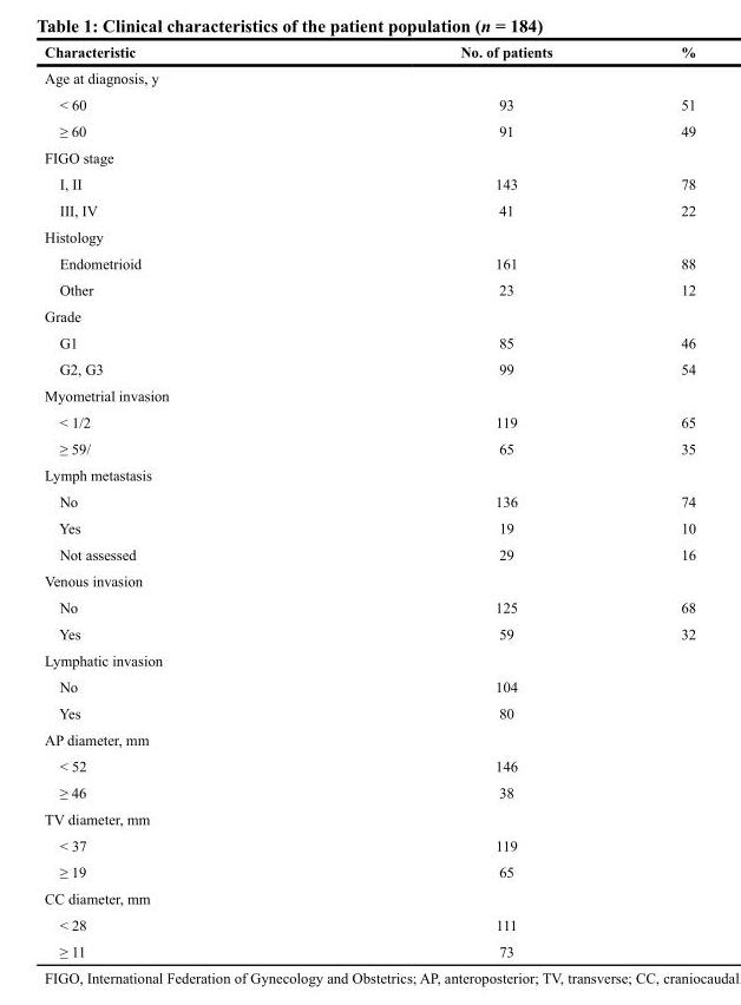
<table><thead><tr><td>Characteristic</td><td>No. of patients</td><td>%</td></tr></thead><tbody><tr><td colspan="3">Age at diagnosis, y</td></tr><tr><td>&lt; 60</td><td>93</td><td>51</td></tr><tr><td>≥ 60</td><td>91</td><td>49</td></tr><tr><td colspan="3">FIGO stage</td></tr><tr><td>I, II</td><td>143</td><td>78</td></tr><tr><td>III, IV</td><td>41</td><td>22</td></tr><tr><td colspan="3">Histology</td></tr><tr><td>Endometrioid</td><td>161</td><td>88</td></tr><tr><td>Other</td><td>23</td><td>12</td></tr><tr><td colspan="3">Grade</td></tr><tr><td>G1</td><td>85</td><td>46</td></tr><tr><td>G2, G3</td><td>99</td><td>54</td></tr><tr><td colspan="3">Myometrial invasion</td></tr><tr><td>&lt; 1/2</td><td>119</td><td>65</td></tr><tr><td>≥ 59/</td><td>65</td><td>35</td></tr><tr><td colspan="3">Lymph metastasis</td></tr><tr><td>No</td><td>136</td><td>74</td></tr><tr><td>Yes</td><td>19</td><td>10</td></tr><tr><td>Not assessed</td><td>29</td><td>16</td></tr><tr><td colspan="3">Venous invasion</td></tr><tr><td>No</td><td>125</td><td>68</td></tr><tr><td>Yes</td><td>59</td><td>32</td></tr><tr><td colspan="3">Lymphatic invasion</td></tr><tr><td>No</td><td>104</td><td></td></tr><tr><td>Yes</td><td>80</td><td></td></tr><tr><td colspan="3">AP diameter, mm</td></tr><tr><td>&lt; 52</td><td>146</td><td></td></tr><tr><td>≥ 46</td><td>38</td><td></td></tr><tr><td colspan="3">TV diameter, mm</td></tr><tr><td>&lt; 37</td><td>119</td><td></td></tr><tr><td>≥ 19</td><td>65</td><td></td></tr><tr><td colspan="3">CC diameter, mm</td></tr><tr><td>&lt; 28</td><td>111</td><td></td></tr><tr><td>≥ 11</td><td>73</td><td></td></tr></tbody></table>